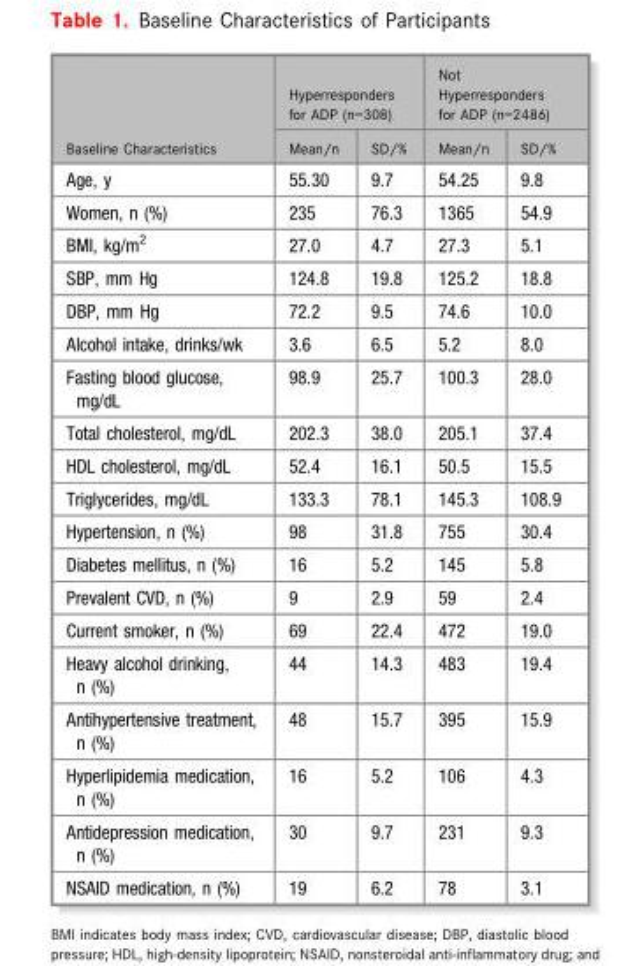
<table><thead><tr><td rowspan="2">Baseline Characteristics</td><td colspan="2">Hyperresponders for ADP (n=308)</td><td colspan="2">Not Hyperresponders for ADP (n=2486)</td></tr><tr><td>Mean/n</td><td>SD/%</td><td>Mean/n</td><td>SD/%</td></tr></thead><tbody><tr><td>Age, y</td><td>55.30</td><td>9.7</td><td>54.25</td><td>9.8</td></tr><tr><td>Women, n (%)</td><td>235</td><td>76.3</td><td>1365</td><td>54.9</td></tr><tr><td>BMI, kg/m<sup>2</sup></td><td>27.0</td><td>4.7</td><td>27.3</td><td>5.1</td></tr><tr><td>SBP, mm Hg</td><td>124.8</td><td>19.8</td><td>125.2</td><td>18.8</td></tr><tr><td>DBP, mm Hg</td><td>72.2</td><td>9.5</td><td>74.6</td><td>10.0</td></tr><tr><td>Alcohol intake, drinks/wk</td><td>3.6</td><td>6.5</td><td>5.2</td><td>8.0</td></tr><tr><td>Fasting blood glucose, mg/dL</td><td>98.9</td><td>25.7</td><td>100.3</td><td>28.0</td></tr><tr><td>Total cholesterol, mg/dL</td><td>202.3</td><td>38.0</td><td>205.1</td><td>37.4</td></tr><tr><td>HDL cholesterol, mg/dL</td><td>52.4</td><td>16.1</td><td>50.5</td><td>15.5</td></tr><tr><td>Triglycerides, mg/dL</td><td>133.3</td><td>78.1</td><td>145.3</td><td>108.9</td></tr><tr><td>Hypertension, n (%)</td><td>98</td><td>31.8</td><td>755</td><td>30.4</td></tr><tr><td>Diabetes mellitus, n (%)</td><td>16</td><td>5.2</td><td>145</td><td>5.8</td></tr><tr><td>Prevalent CVD, n (%)</td><td>9</td><td>2.9</td><td>59</td><td>2.4</td></tr><tr><td>Current smoker, n (%)</td><td>69</td><td>22.4</td><td>472</td><td>19.0</td></tr><tr><td>Heavy alcohol drinking, n (%)</td><td>44</td><td>14.3</td><td>483</td><td>19.4</td></tr><tr><td>Antihypertensive treatment, n (%)</td><td>48</td><td>15.7</td><td>395</td><td>15.9</td></tr><tr><td>Hyperlipidemia medication, n (%)</td><td>16</td><td>5.2</td><td>106</td><td>4.3</td></tr><tr><td>Antidepression medication, n (%)</td><td>30</td><td>9.7</td><td>231</td><td>9.3</td></tr><tr><td>NSAID medication, n (%)</td><td>19</td><td>6.2</td><td>78</td><td>3.1</td></tr></tbody></table>